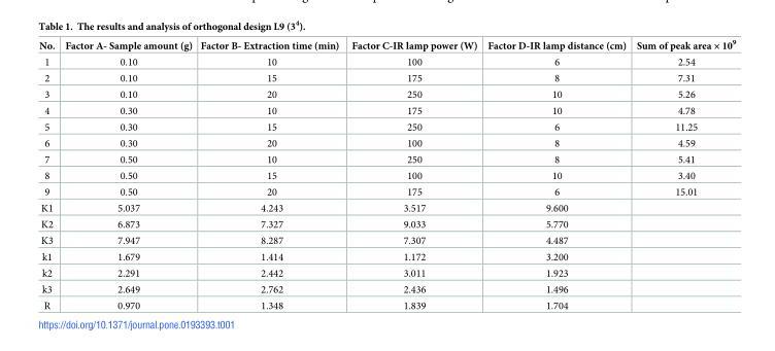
<table><thead><tr><td>No.</td><td>Factor A- Sample amount (g)</td><td>Factor B- Extraction time (min)</td><td>Factor C-IR lamp power (W)</td><td>Factor D-IR lamp distance (cm)</td><td>Sum of peak area × 10<sup>9</sup></td></tr></thead><tbody><tr><td>1</td><td>0.10</td><td>10</td><td>100</td><td>6</td><td>2.54</td></tr><tr><td>2</td><td>0.10</td><td>15</td><td>175</td><td>8</td><td>7.31</td></tr><tr><td>3</td><td>0.10</td><td>20</td><td>250</td><td>10</td><td>5.26</td></tr><tr><td>4</td><td>0.30</td><td>10</td><td>175</td><td>10</td><td>4.78</td></tr><tr><td>5</td><td>0.30</td><td>15</td><td>250</td><td>6</td><td>11.25</td></tr><tr><td>6</td><td>0.30</td><td>20</td><td>100</td><td>8</td><td>4.59</td></tr><tr><td>7</td><td>0.50</td><td>10</td><td>250</td><td>8</td><td>5.41</td></tr><tr><td>8</td><td>0.50</td><td>15</td><td>100</td><td>10</td><td>3.40</td></tr><tr><td>9</td><td>0.50</td><td>20</td><td>175</td><td>6</td><td>15.01</td></tr><tr><td>K1</td><td>5.037</td><td>4.243</td><td>3.517</td><td>9.600</td><td></td></tr><tr><td>K2</td><td>6.873</td><td>7.327</td><td>9.033</td><td>5.770</td><td></td></tr><tr><td>K3</td><td>7.947</td><td>8.287</td><td>7.307</td><td>4.487</td><td></td></tr><tr><td>k1</td><td>1.679</td><td>1.414</td><td>1.172</td><td>3.200</td><td></td></tr><tr><td>k2</td><td>2.291</td><td>2.442</td><td>3.011</td><td>1.923</td><td></td></tr><tr><td>k3</td><td>2.649</td><td>2.762</td><td>2.436</td><td>1.496</td><td></td></tr><tr><td>R</td><td>0.970</td><td>1.348</td><td>1.839</td><td>1.704</td><td></td></tr></tbody></table>